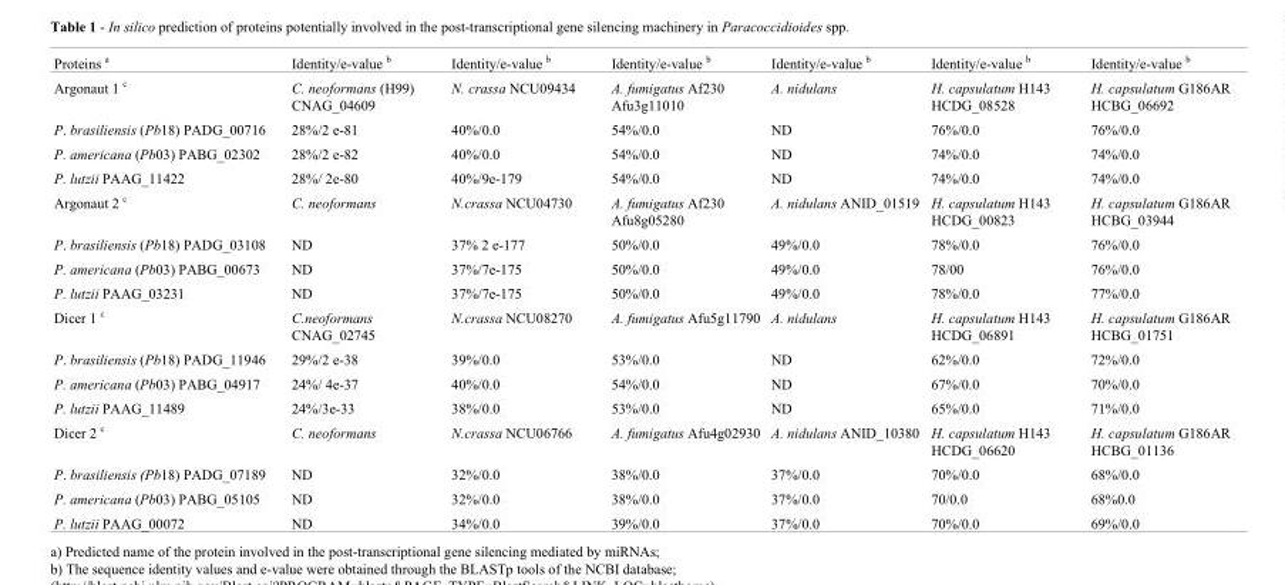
<table><thead><tr><td>Proteins <sup>a</sup></td><td>Identity/e-value <sup>b</sup></td><td>Identity/e-value <sup>b</sup></td><td>Identity/e-value <sup>b</sup></td><td>Identity/e-value <sup>b</sup></td><td>Identity/e-value <sup>b</sup></td><td>Identity/e-value <sup>b</sup></td></tr></thead><tbody><tr><td>Argonaut 1 <sup>c</sup></td><td>C. neoformans (H99) CNAG_04609</td><td>N. crassa NCU09434</td><td>A. fumigatus Af230 Afu3g11010</td><td>A. nidulans</td><td>H. capsulatum H143 HCDG_08528</td><td>H. capsulatum G186AR HCBG_06692</td></tr><tr><td>P. brasiliensis (Pb18) PADG_00716</td><td>28%/2 e-81</td><td>40%/0.0</td><td>54%/0.0</td><td>ND</td><td>76%/0.0</td><td>76%/0.0</td></tr><tr><td>P. americana (Pb03) PABG_02302</td><td>28%/2 e-82</td><td>40%/0.0</td><td>54%/0.0</td><td>ND</td><td>74%/0.0</td><td>74%/0.0</td></tr><tr><td>P. lutzii PAAG_11422</td><td>28%/ 2e-80</td><td>40%/9e-179</td><td>54%/0.0</td><td>ND</td><td>74%/0.0</td><td>74%/0.0</td></tr><tr><td>Argonaut 2 <sup>c</sup></td><td>C. neoformans</td><td>N.crassa NCU04730</td><td>A. fumigatus Af230 Afu8g05280</td><td>A. nidulans ANID_01519</td><td>H. capsulatum H143 HCDG_00823</td><td>H. capsulatum G186AR HCBG_03944</td></tr><tr><td>P. brasiliensis (Pb18) PADG_03108</td><td>ND</td><td>37% 2 e-177</td><td>50%/0.0</td><td>49%/0.0</td><td>78%/0.0</td><td>76%/0.0</td></tr><tr><td>P. americana (Pb03) PABG_00673</td><td>ND</td><td>37%/7e-175</td><td>50%/0.0</td><td>49%/0.0</td><td>78/00</td><td>76%/0.0</td></tr><tr><td>P. lutzii PAAG_03231</td><td>ND</td><td>37%/7e-175</td><td>50%/0.0</td><td>49%/0.0</td><td>78%/0.0</td><td>77%/0.0</td></tr><tr><td>Dicer 1 <sup>c</sup></td><td>C.neoformans CNAG_02745</td><td>N.crassa NCU08270</td><td>A. fumigatus Afu5g11790</td><td>A. nidulans</td><td>H. capsulatum H143 HCDG_06891</td><td>H. capsulatum G186AR HCBG_01751</td></tr><tr><td>P. brasiliensis (Pb18) PADG_11946</td><td>29%/2 e-38</td><td>39%/0.0</td><td>53%/0.0</td><td>ND</td><td>62%/0.0</td><td>72%/0.0</td></tr><tr><td>P. americana (Pb03) PABG_04917</td><td>24%/ 4e-37</td><td>40%/0.0</td><td>54%/0.0</td><td>ND</td><td>67%/0.0</td><td>70%/0.0</td></tr><tr><td>P. lutzii PAAG_11489</td><td>24%/3e-33</td><td>38%/0.0</td><td>53%/0.0</td><td>ND</td><td>65%/0.0</td><td>71%/0.0</td></tr><tr><td>Dicer 2 <sup>c</sup></td><td>C. neoformans</td><td>N.crassa NCU06766</td><td>A. fumigatus Afu4g02930</td><td>A. nidulans ANID_10380</td><td>H. capsulatum H143 HCDG_06620</td><td>H. capsulatum G186AR HCBG_01136</td></tr><tr><td>P. brasiliensis (Pb18) PADG_07189</td><td>ND</td><td>32%/0.0</td><td>38%/0.0</td><td>37%/0.0</td><td>70%/0.0</td><td>68%/0.0</td></tr><tr><td>P. americana (Pb03) PABG_05105</td><td>ND</td><td>32%/0.0</td><td>38%/0.0</td><td>37%/0.0</td><td>70/0.0</td><td>68%0.0</td></tr><tr><td>P. lutzii PAAG_00072</td><td>ND</td><td>34%/0.0</td><td>39%/0.0</td><td>37%/0.0</td><td>70%/0.0</td><td>69%/0.0</td></tr></tbody></table>